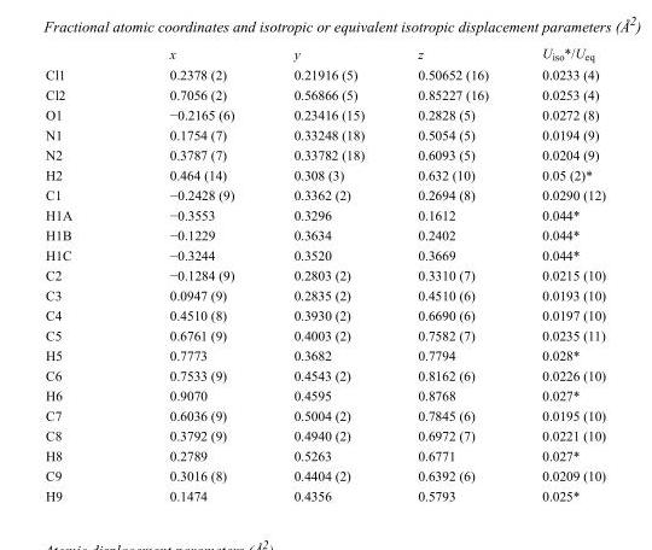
<table><thead><tr><td></td><td>x</td><td>y</td><td>z</td><td>U<sub>iso</sub>*/U<sub>eq</sub></td></tr></thead><tbody><tr><td>Cl1</td><td>0.2378 (2)</td><td>0.21916 (5)</td><td>0.50652 (16)</td><td>0.0233 (4)</td></tr><tr><td>Cl2</td><td>0.7056 (2)</td><td>0.56866 (5)</td><td>0.85227 (16)</td><td>0.0253 (4)</td></tr><tr><td>O1</td><td>−0.2165 (6)</td><td>0.23416 (15)</td><td>0.2828 (5)</td><td>0.0272 (8)</td></tr><tr><td>N1</td><td>0.1754 (7)</td><td>0.33248 (18)</td><td>0.5054 (5)</td><td>0.0194 (9)</td></tr><tr><td>N2</td><td>0.3787 (7)</td><td>0.33782 (18)</td><td>0.6093 (5)</td><td>0.0204 (9)</td></tr><tr><td>H2</td><td>0.464 (14)</td><td>0.308 (3)</td><td>0.632 (10)</td><td>0.05 (2)*</td></tr><tr><td>C1</td><td>−0.2428 (9)</td><td>0.3362 (2)</td><td>0.2694 (8)</td><td>0.0290 (12)</td></tr><tr><td>H1A</td><td>−0.3553</td><td>0.3296</td><td>0.1612</td><td>0.044*</td></tr><tr><td>H1B</td><td>−0.1229</td><td>0.3634</td><td>0.2402</td><td>0.044*</td></tr><tr><td>H1C</td><td>−0.3244</td><td>0.3520</td><td>0.3669</td><td>0.044*</td></tr><tr><td>C2</td><td>−0.1284 (9)</td><td>0.2803 (2)</td><td>0.3310 (7)</td><td>0.0215 (10)</td></tr><tr><td>C3</td><td>0.0947 (9)</td><td>0.2835 (2)</td><td>0.4510 (6)</td><td>0.0193 (10)</td></tr><tr><td>C4</td><td>0.4510 (8)</td><td>0.3930 (2)</td><td>0.6690 (6)</td><td>0.0197 (10)</td></tr><tr><td>C5</td><td>0.6761 (9)</td><td>0.4003 (2)</td><td>0.7582 (7)</td><td>0.0235 (11)</td></tr><tr><td>H5</td><td>0.7773</td><td>0.3682</td><td>0.7794</td><td>0.028*</td></tr><tr><td>C6</td><td>0.7533 (9)</td><td>0.4543 (2)</td><td>0.8162 (6)</td><td>0.0226 (10)</td></tr><tr><td>H6</td><td>0.9070</td><td>0.4595</td><td>0.8768</td><td>0.027*</td></tr><tr><td>C7</td><td>0.6036 (9)</td><td>0.5004 (2)</td><td>0.7845 (6)</td><td>0.0195 (10)</td></tr><tr><td>C8</td><td>0.3792 (9)</td><td>0.4940 (2)</td><td>0.6972 (7)</td><td>0.0221 (10)</td></tr><tr><td>H8</td><td>0.2789</td><td>0.5263</td><td>0.6771</td><td>0.027*</td></tr><tr><td>C9</td><td>0.3016 (8)</td><td>0.4404 (2)</td><td>0.6392 (6)</td><td>0.0209 (10)</td></tr><tr><td>H9</td><td>0.1474</td><td>0.4356</td><td>0.5793</td><td>0.025*</td></tr></tbody></table>